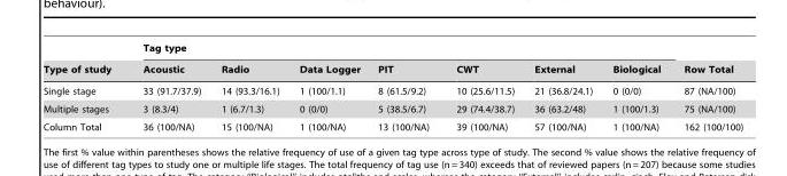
<table><thead><tr><td rowspan="2">Type of study</td><td colspan="7">Tag type</td><td rowspan="2">Row Total</td></tr><tr><td>Acoustic</td><td>Radio</td><td>Data Logger</td><td>PIT</td><td>CWT</td><td>External</td><td>Biological</td></tr></thead><tbody><tr><td>Single stage</td><td>33 (91.7/37.9)</td><td>14 (93.3/16.1)</td><td>1 (100/1.1)</td><td>8 (61.5/9.2)</td><td>10 (25.6/11.5)</td><td>21 (36.8/24.1)</td><td>0 (0/0)</td><td>87 (NA/100)</td></tr><tr><td>Multiple stages</td><td>3 (8.3/4)</td><td>1 (6.7/1.3)</td><td>0 (0/0)</td><td>5 (38.5/6.7)</td><td>29 (74.4/38.7)</td><td>36 (63.2/48)</td><td>1 (100/1.3)</td><td>75 (NA/100)</td></tr><tr><td>Column Total</td><td>36 (100/NA)</td><td>15 (100/NA)</td><td>1 (100/NA)</td><td>13 (100/NA)</td><td>39 (100/NA)</td><td>57 (100/NA)</td><td>1 (100/NA)</td><td>162 (100/100)</td></tr></tbody></table>